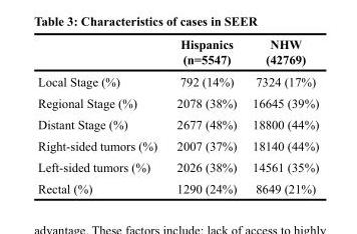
<table><thead><tr><td></td><td>Hispanics (n=5547)</td><td>NHW (42769)</td></tr></thead><tbody><tr><td>Local Stage (%)</td><td>792 (14%)</td><td>7324 (17%)</td></tr><tr><td>Regional Stage (%)</td><td>2078 (38%)</td><td>16645 (39%)</td></tr><tr><td>Distant Stage (%)</td><td>2677 (48%)</td><td>18800 (44%)</td></tr><tr><td>Right-sided tumors (%)</td><td>2007 (37%)</td><td>18140 (44%)</td></tr><tr><td>Left-sided tumors (%)</td><td>2026 (38%)</td><td>14561 (35%)</td></tr><tr><td>Rectal (%)</td><td>1290 (24%)</td><td>8649 (21%)</td></tr></tbody></table>